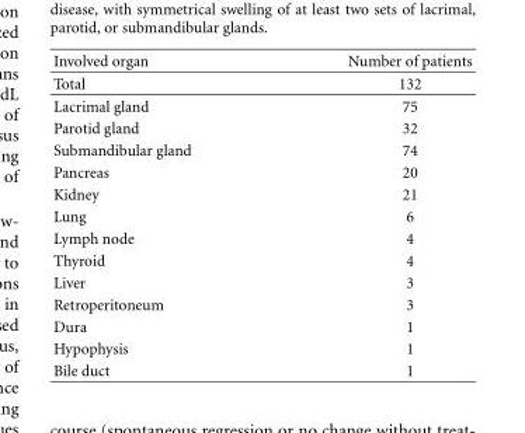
<table><thead><tr><td>Involved organ</td><td>Number of patients</td></tr></thead><tbody><tr><td>Total</td><td>132</td></tr><tr><td>Lacrimal gland</td><td>75</td></tr><tr><td>Parotid gland</td><td>32</td></tr><tr><td>Submandibular gland</td><td>74</td></tr><tr><td>Pancreas</td><td>20</td></tr><tr><td>Kidney</td><td>21</td></tr><tr><td>Lung</td><td>6</td></tr><tr><td>Lymph node</td><td>4</td></tr><tr><td>Thyroid</td><td>4</td></tr><tr><td>Liver</td><td>3</td></tr><tr><td>Retroperitoneum</td><td>3</td></tr><tr><td>Dura</td><td>1</td></tr><tr><td>Hypophysis</td><td>1</td></tr><tr><td>Bile duct</td><td>1</td></tr></tbody></table>